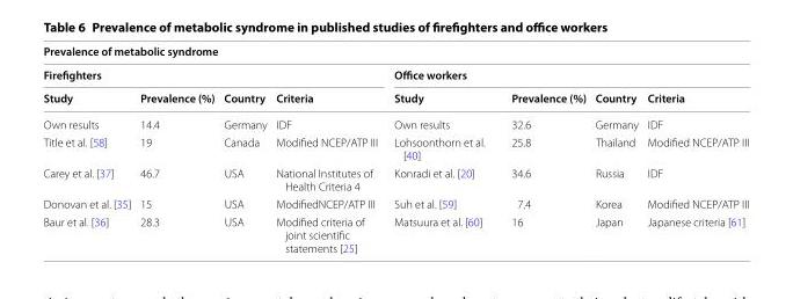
<table><thead><tr><td colspan="8">Prevalence of metabolic syndrome</td></tr><tr><td colspan="4">Firefighters</td><td colspan="4">Office workers</td></tr><tr><td>Study</td><td>Prevalence (%)</td><td>Country</td><td>Criteria</td><td>Study</td><td>Prevalence (%)</td><td>Country</td><td>Criteria</td></tr></thead><tbody><tr><td>Own results</td><td>14.4</td><td>Germany</td><td>IDF</td><td>Own results</td><td>32.6</td><td>Germany</td><td>IDF</td></tr><tr><td>Title et al. [58]</td><td>19</td><td>Canada</td><td>Modified NCEP/ATP III</td><td>Lohsoonthorn et al. [40]</td><td>25.8</td><td>Thailand</td><td>Modified NCEP/ATP III</td></tr><tr><td>Carey et al. [37]</td><td>46.7</td><td>USA</td><td>National Institutes of Health Criteria 4</td><td>Konradi et al. [20]</td><td>34.6</td><td>Russia</td><td>IDF</td></tr><tr><td>Donovan et al. [35]</td><td>15</td><td>USA</td><td>ModifiedNCEP/ATP III</td><td>Suh et al. [59]</td><td>7.4</td><td>Korea</td><td>Modified NCEP/ATP III</td></tr><tr><td>Baur et al. [36]</td><td>28.3</td><td>USA</td><td>Modified criteria of joint scientific statements [25]</td><td>Matsuura et al. [60]</td><td>16</td><td>Japan</td><td>Japanese criteria [61]</td></tr></tbody></table>